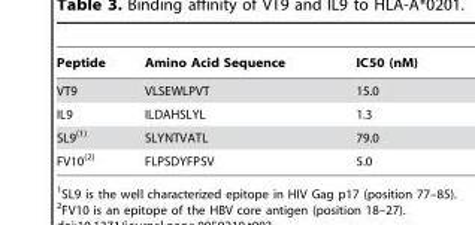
<table><thead><tr><td>Peptide</td><td>Amino Acid Sequence</td><td>IC50 (nM)</td></tr></thead><tbody><tr><td>VT9</td><td>VLSEWLPVT</td><td>15.0</td></tr><tr><td>IL9</td><td>ILDAHSLYL</td><td>1.3</td></tr><tr><td>SL9<sup>(1)</sup></td><td>SLYNTVATL</td><td>79.0</td></tr><tr><td>FV10<sup>(2)</sup></td><td>FLPSDYFPSV</td><td>5.0</td></tr></tbody></table>